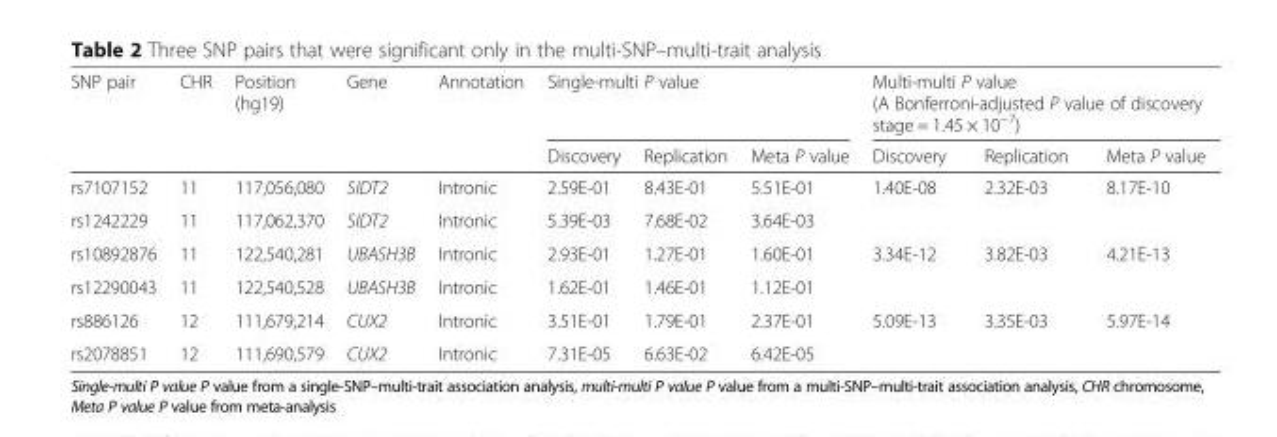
<table><thead><tr><td rowspan="2">SNP pair</td><td rowspan="2">CHR</td><td rowspan="2">Position (hg19)</td><td rowspan="2">Gene</td><td rowspan="2">Annotation</td><td colspan="3">Single-multi P value</td><td colspan="3">Multi-multi P value (A Bonferroni-adjusted P value of discovery stage = 1.45 × 10<sup>−7</sup>)</td></tr><tr><td>Discovery</td><td>Replication</td><td>Meta P value</td><td>Discovery</td><td>Replication</td><td>Meta P value</td></tr></thead><tbody><tr><td>rs7107152</td><td>11</td><td>117,056,080</td><td>SIDT2</td><td>Intronic</td><td>2.59E-01</td><td>8.43E-01</td><td>5.51E-01</td><td rowspan="2">1.40E-08</td><td rowspan="2">2.32E-03</td><td rowspan="2">8.17E-10</td></tr><tr><td>rs1242229</td><td>11</td><td>117,062,370</td><td>SIDT2</td><td>Intronic</td><td>5.39E-03</td><td>7.68E-02</td><td>3.64E-03</td></tr><tr><td>rs10892876</td><td>11</td><td>122,540,281</td><td>UBASH3B</td><td>Intronic</td><td>2.93E-01</td><td>1.27E-01</td><td>1.60E-01</td><td rowspan="2">3.34E-12</td><td rowspan="2">3.82E-03</td><td rowspan="2">4.21E-13</td></tr><tr><td>rs12290043</td><td>11</td><td>122,540,528</td><td>UBASH3B</td><td>Intronic</td><td>1.62E-01</td><td>1.46E-01</td><td>1.12E-01</td></tr><tr><td>rs886126</td><td>12</td><td>111,679,214</td><td>CUX2</td><td>Intronic</td><td>3.51E-01</td><td>1.79E-01</td><td>2.37E-01</td><td rowspan="2">5.09E-13</td><td rowspan="2">3.35E-03</td><td rowspan="2">5.97E-14</td></tr><tr><td>rs2078851</td><td>12</td><td>111,690,579</td><td>CUX2</td><td>Intronic</td><td>7.31E-05</td><td>6.63E-02</td><td>6.42E-05</td></tr></tbody></table>